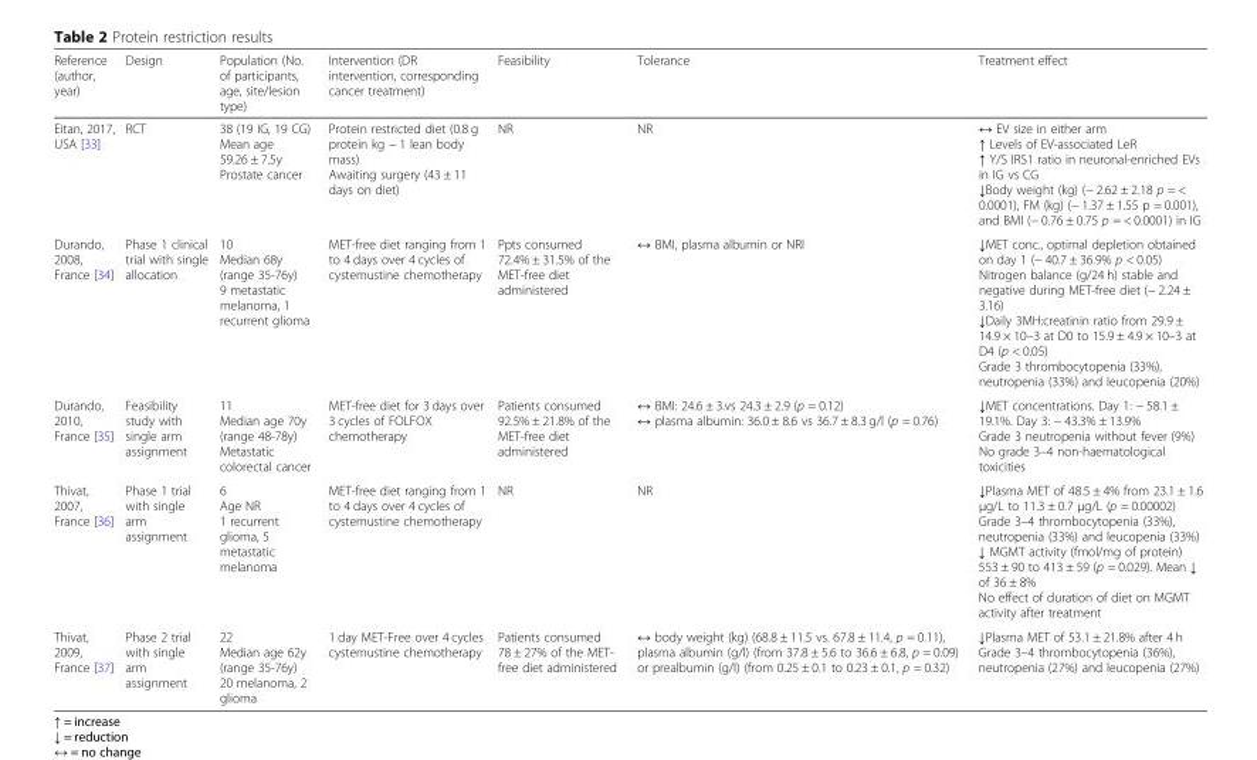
<table><thead><tr><td>Reference (author, year)</td><td>Design</td><td>Population (No. of participants, age, site/lesion type)</td><td>Intervention (DR intervention, corresponding cancer treatment)</td><td>Feasibility</td><td>Tolerance</td><td>Treatment effect</td></tr></thead><tbody><tr><td>Eitan, 2017, USA [33]</td><td>RCT</td><td>38 (19 IG, 19 CG) Mean age 59.26 ± 7.5y Prostate cancer</td><td>Protein restricted diet (0.8 g protein kg − 1 lean body mass) Awaiting surgery (43 ± 11 days on diet)</td><td>NR</td><td>NR</td><td>↔ EV size in either arm ↑ Levels of EV-associated LeR ↑ Y/S IRS1 ratio in neuronal-enriched EVs in IG vs CG ↓Body weight (kg) (− 2.62 ± 2.18 p = &lt; 0.0001), FM (kg) (− 1.37 ± 1.55 p = 0.001), and BMI (− 0.76 ± 0.75 p = &lt; 0.0001) in IG</td></tr><tr><td>Durando, 2008, France [34]</td><td>Phase 1 clinical trial with single allocation</td><td>10 Median 68y (range 35-76y) 9 metastatic melanoma, 1 recurrent glioma</td><td>MET-free diet ranging from 1 to 4 days over 4 cycles of cystemustine chemotherapy</td><td>Ppts consumed 72.4% ± 31.5% of the MET-free diet administered</td><td>↔ BMI, plasma albumin or NRI</td><td>↓MET conc., optimal depletion obtained on day 1 (− 40.7 ± 36.9% p &lt; 0.05) Nitrogen balance (g/24 h) stable and negative during MET-free diet (− 2.24 ± 3.16) ↓Daily 3MH:creatinin ratio from 29.9 ± 14.9 × 10–3 at D0 to 15.9 ± 4.9 × 10–3 at D4 (p &lt; 0.05) Grade 3 thrombocytopenia (33%), neutropenia (33%) and leucopenia (20%)</td></tr><tr><td>Durando, 2010, France [35]</td><td>Feasibility study with single arm assignment</td><td>11 Median age 70y (range 48-78y) Metastatic colorectal cancer</td><td>MET-free diet for 3 days over 3 cycles of FOLFOX chemotherapy</td><td>Patients consumed 92.5% ± 21.8% of the MET-free diet administered</td><td>↔ BMI: 24.6 ± 3.vs 24.3 ± 2.9 (p = 0.12) ↔ plasma albumin: 36.0 ± 8.6 vs 36.7 ± 8.3 g/l (p = 0.76)</td><td>↓MET concentrations. Day 1: − 58.1 ± 19.1%. Day 3: − 43.3% ± 13.9% Grade 3 neutropenia without fever (9%) No grade 3–4 non-haematological toxicities</td></tr><tr><td>Thivat, 2007, France [36]</td><td>Phase 1 trial with single arm assignment</td><td>6 Age NR 1 recurrent glioma, 5 metastatic melanoma</td><td>MET-free diet ranging from 1 to 4 days over 4 cycles of cystemustine chemotherapy</td><td>NR</td><td>NR</td><td>↓Plasma MET of 48.5 ± 4% from 23.1 ± 1.6 μg/L to 11.3 ± 0.7 μg/L (p = 0.00002) Grade 3–4 thrombocytopenia (33%), neutropenia (33%) and leucopenia (33%) ↓ MGMT activity (fmol/mg of protein) 553 ± 90 to 413 ± 59 (p = 0.029). Mean ↓ of 36 ± 8% No effect of duration of diet on MGMT activity after treatment</td></tr><tr><td>Thivat, 2009, France [37]</td><td>Phase 2 trial with single arm assignment</td><td>22 Median age 62y (range 35-76y) 20 melanoma, 2 glioma</td><td>1 day MET-Free over 4 cycles cystemustine chemotherapy</td><td>Patients consumed 78 ± 27% of the MET- free diet administered</td><td>↔ body weight (kg) (68.8 ± 11.5 vs. 67.8 ± 11.4, p = 0.11), plasma albumin (g/l) (from 37.8 ± 5.6 to 36.6 ± 6.8, p = 0.09) or prealbumin (g/l) (from 0.25 ± 0.1 to 0.23 ± 0.1, p = 0.32)</td><td>↓Plasma MET of 53.1 ± 21.8% after 4 h Grade 3–4 thrombocytopenia (36%), neutropenia (27%) and leucopenia (27%)</td></tr></tbody></table>